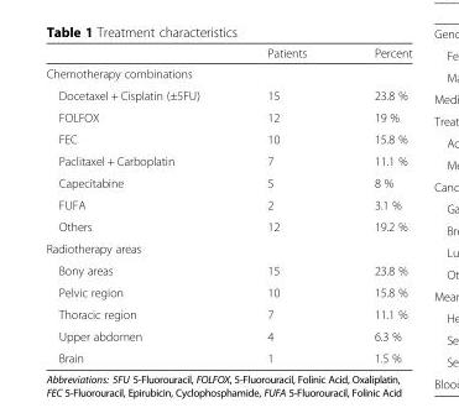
<table><thead><tr><td></td><td>Patients</td><td>Percent</td></tr></thead><tbody><tr><td colspan="3">Chemotherapy combinations</td></tr><tr><td>Docetaxel + Cisplatin (±5FU)</td><td>15</td><td>23.8 %</td></tr><tr><td>FOLFOX</td><td>12</td><td>19 %</td></tr><tr><td>FEC</td><td>10</td><td>15.8 %</td></tr><tr><td>Paclitaxel + Carboplatin</td><td>7</td><td>11.1 %</td></tr><tr><td>Capecitabine</td><td>5</td><td>8 %</td></tr><tr><td>FUFA</td><td>2</td><td>3.1 %</td></tr><tr><td>Others</td><td>12</td><td>19.2 %</td></tr><tr><td colspan="3">Radiotherapy areas</td></tr><tr><td>Bony areas</td><td>15</td><td>23.8 %</td></tr><tr><td>Pelvic region</td><td>10</td><td>15.8 %</td></tr><tr><td>Thoracic region</td><td>7</td><td>11.1 %</td></tr><tr><td>Upper abdomen</td><td>4</td><td>6.3 %</td></tr><tr><td>Brain</td><td>1</td><td>1.5 %</td></tr></tbody></table>